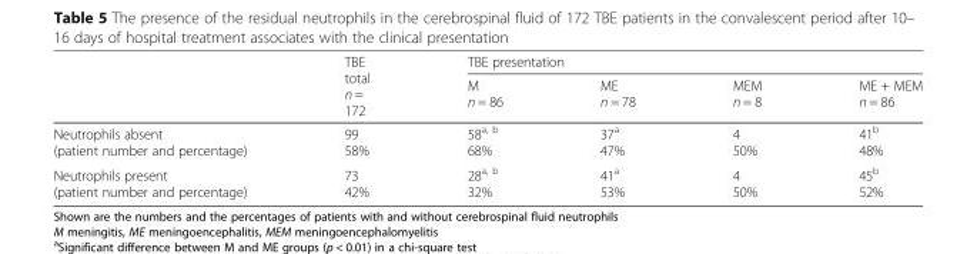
<table><thead><tr><td rowspan="2"></td><td rowspan="2">TBE total n = 172</td><td colspan="4">TBE presentation</td></tr><tr><td>M n = 86</td><td>ME n = 78</td><td>MEM n = 8</td><td>ME + MEM n = 86</td></tr></thead><tbody><tr><td>Neutrophils absent (patient number and percentage)</td><td>99 58%</td><td>58<sup>a, b</sup> 68%</td><td>37<sup>a</sup> 47%</td><td>4 50%</td><td>41<sup>b</sup> 48%</td></tr><tr><td>Neutrophils present (patient number and percentage)</td><td>73 42%</td><td>28<sup>a, b</sup> 32%</td><td>41<sup>a</sup> 53%</td><td>4 50%</td><td>45<sup>b</sup> 52%</td></tr></tbody></table>